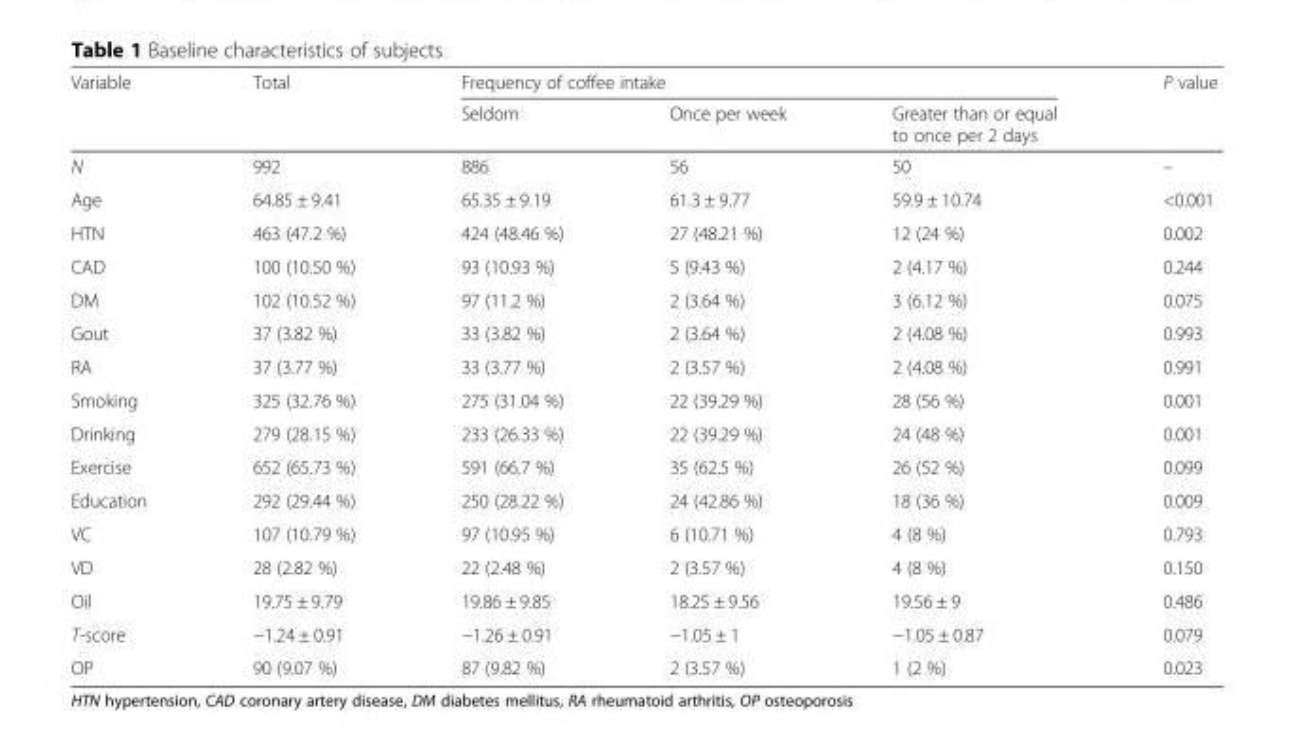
<table><thead><tr><td rowspan="2">Variable</td><td rowspan="2">Total</td><td colspan="3">Frequency of coffee intake</td><td rowspan="2">P value</td></tr><tr><td>Seldom</td><td>Once per week</td><td>Greater than or equal to once per 2 days</td></tr></thead><tbody><tr><td>N</td><td>992</td><td>886</td><td>56</td><td>50</td><td>–</td></tr><tr><td>Age</td><td>64.85 ± 9.41</td><td>65.35 ± 9.19</td><td>61.3 ± 9.77</td><td>59.9 ± 10.74</td><td>&lt;0.001</td></tr><tr><td>HTN</td><td>463 (47.2 %)</td><td>424 (48.46 %)</td><td>27 (48.21 %)</td><td>12 (24 %)</td><td>0.002</td></tr><tr><td>CAD</td><td>100 (10.50 %)</td><td>93 (10.93 %)</td><td>5 (9.43 %)</td><td>2 (4.17 %)</td><td>0.244</td></tr><tr><td>DM</td><td>102 (10.52 %)</td><td>97 (11.2 %)</td><td>2 (3.64 %)</td><td>3 (6.12 %)</td><td>0.075</td></tr><tr><td>Gout</td><td>37 (3.82 %)</td><td>33 (3.82 %)</td><td>2 (3.64 %)</td><td>2 (4.08 %)</td><td>0.993</td></tr><tr><td>RA</td><td>37 (3.77 %)</td><td>33 (3.77 %)</td><td>2 (3.57 %)</td><td>2 (4.08 %)</td><td>0.991</td></tr><tr><td>Smoking</td><td>325 (32.76 %)</td><td>275 (31.04 %)</td><td>22 (39.29 %)</td><td>28 (56 %)</td><td>0.001</td></tr><tr><td>Drinking</td><td>279 (28.15 %)</td><td>233 (26.33 %)</td><td>22 (39.29 %)</td><td>24 (48 %)</td><td>0.001</td></tr><tr><td>Exercise</td><td>652 (65.73 %)</td><td>591 (66.7 %)</td><td>35 (62.5 %)</td><td>26 (52 %)</td><td>0.099</td></tr><tr><td>Education</td><td>292 (29.44 %)</td><td>250 (28.22 %)</td><td>24 (42.86 %)</td><td>18 (36 %)</td><td>0.009</td></tr><tr><td>VC</td><td>107 (10.79 %)</td><td>97 (10.95 %)</td><td>6 (10.71 %)</td><td>4 (8 %)</td><td>0.793</td></tr><tr><td>VD</td><td>28 (2.82 %)</td><td>22 (2.48 %)</td><td>2 (3.57 %)</td><td>4 (8 %)</td><td>0.150</td></tr><tr><td>Oil</td><td>19.75 ± 9.79</td><td>19.86 ± 9.85</td><td>18.25 ± 9.56</td><td>19.56 ± 9</td><td>0.486</td></tr><tr><td>T-score</td><td>−1.24 ± 0.91</td><td>−1.26 ± 0.91</td><td>−1.05 ± 1</td><td>−1.05 ± 0.87</td><td>0.079</td></tr><tr><td>OP</td><td>90 (9.07 %)</td><td>87 (9.82 %)</td><td>2 (3.57 %)</td><td>1 (2 %)</td><td>0.023</td></tr></tbody></table>